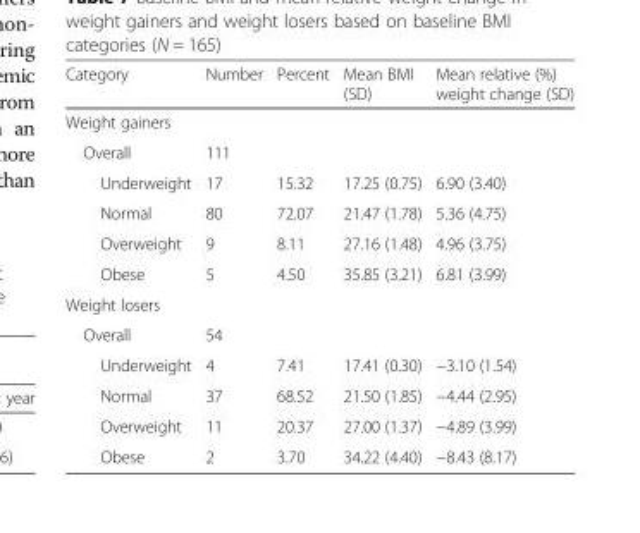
<table><thead><tr><td>Category</td><td>Number</td><td>Percent</td><td>Mean BMI (SD)</td><td>Mean relative (%) weight change (SD)</td></tr></thead><tbody><tr><td colspan="5">Weight gainers</td></tr><tr><td>Overall</td><td>111</td><td></td><td></td><td></td></tr><tr><td>Underweight</td><td>17</td><td>15.32</td><td>17.25 (0.75)</td><td>6.90 (3.40)</td></tr><tr><td>Normal</td><td>80</td><td>72.07</td><td>21.47 (1.78)</td><td>5.36 (4.75)</td></tr><tr><td>Overweight</td><td>9</td><td>8.11</td><td>27.16 (1.48)</td><td>4.96 (3.75)</td></tr><tr><td>Obese</td><td>5</td><td>4.50</td><td>35.85 (3.21)</td><td>6.81 (3.99)</td></tr><tr><td colspan="5">Weight losers</td></tr><tr><td>Overall</td><td>54</td><td></td><td></td><td></td></tr><tr><td>Underweight</td><td>4</td><td>7.41</td><td>17.41 (0.30)</td><td>−3.10 (1.54)</td></tr><tr><td>Normal</td><td>37</td><td>68.52</td><td>21.50 (1.85)</td><td>−4.44 (2.95)</td></tr><tr><td>Overweight</td><td>11</td><td>20.37</td><td>27.00 (1.37)</td><td>−4.89 (3.99)</td></tr><tr><td>Obese</td><td>2</td><td>3.70</td><td>34.22 (4.40)</td><td>−8.43 (8.17)</td></tr></tbody></table>